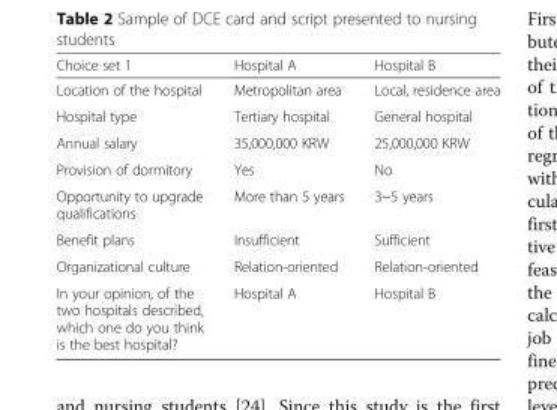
<table><thead><tr><td>Choice set 1</td><td>Hospital A</td><td>Hospital B</td></tr></thead><tbody><tr><td>Location of the hospital</td><td>Metropolitan area</td><td>Local, residence area</td></tr><tr><td>Hospital type</td><td>Tertiary hospital</td><td>General hospital</td></tr><tr><td>Annual salary</td><td>35,000,000 KRW</td><td>25,000,000 KRW</td></tr><tr><td>Provision of dormitory</td><td>Yes</td><td>No</td></tr><tr><td>Opportunity to upgrade qualifications</td><td>More than 5 years</td><td>3~5 years</td></tr><tr><td>Benefit plans</td><td>Insufficient</td><td>Sufficient</td></tr><tr><td>Organizational culture</td><td>Relation-oriented</td><td>Relation-oriented</td></tr><tr><td>In your opinion, of the two hospitals described, which one do you think is the best hospital?</td><td>Hospital A</td><td>Hospital B</td></tr></tbody></table>